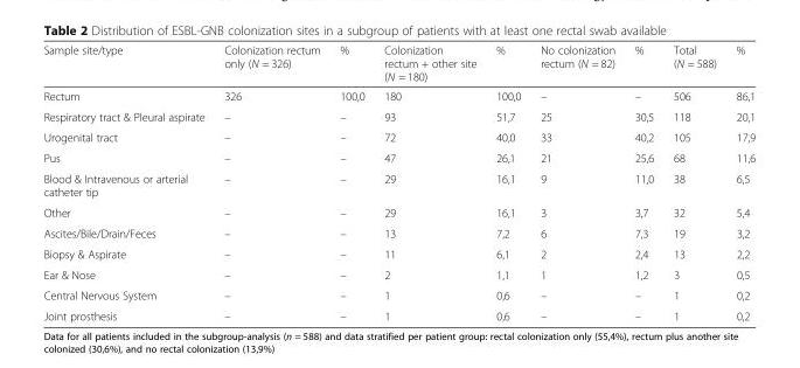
<table><thead><tr><td>Sample site/type</td><td>Colonization rectum only (N = 326)</td><td>%</td><td>Colonization rectum + other site (N = 180)</td><td>%</td><td>No colonization rectum (N = 82)</td><td>%</td><td>Total (N = 588)</td><td>%</td></tr></thead><tbody><tr><td>Rectum</td><td>326</td><td>100,0</td><td>180</td><td>100,0</td><td>–</td><td>–</td><td>506</td><td>86,1</td></tr><tr><td>Respiratory tract &amp; Pleural aspirate</td><td>–</td><td>–</td><td>93</td><td>51,7</td><td>25</td><td>30,5</td><td>118</td><td>20,1</td></tr><tr><td>Urogenital tract</td><td>–</td><td>–</td><td>72</td><td>40,0</td><td>33</td><td>40,2</td><td>105</td><td>17,9</td></tr><tr><td>Pus</td><td>–</td><td>–</td><td>47</td><td>26,1</td><td>21</td><td>25,6</td><td>68</td><td>11,6</td></tr><tr><td>Blood &amp; Intravenous or arterial catheter tip</td><td>–</td><td>–</td><td>29</td><td>16,1</td><td>9</td><td>11,0</td><td>38</td><td>6,5</td></tr><tr><td>Other</td><td>–</td><td>–</td><td>29</td><td>16,1</td><td>3</td><td>3,7</td><td>32</td><td>5,4</td></tr><tr><td>Ascites/Bile/Drain/Feces</td><td>–</td><td>–</td><td>13</td><td>7,2</td><td>6</td><td>7,3</td><td>19</td><td>3,2</td></tr><tr><td>Biopsy &amp; Aspirate</td><td>–</td><td>–</td><td>11</td><td>6,1</td><td>2</td><td>2,4</td><td>13</td><td>2,2</td></tr><tr><td>Ear &amp; Nose</td><td>–</td><td>–</td><td>2</td><td>1,1</td><td>1</td><td>1,2</td><td>3</td><td>0,5</td></tr><tr><td>Central Nervous System</td><td>–</td><td>–</td><td>1</td><td>0,6</td><td>–</td><td>–</td><td>1</td><td>0,2</td></tr><tr><td>Joint prosthesis</td><td>–</td><td>–</td><td>1</td><td>0,6</td><td>–</td><td>–</td><td>1</td><td>0,2</td></tr></tbody></table>